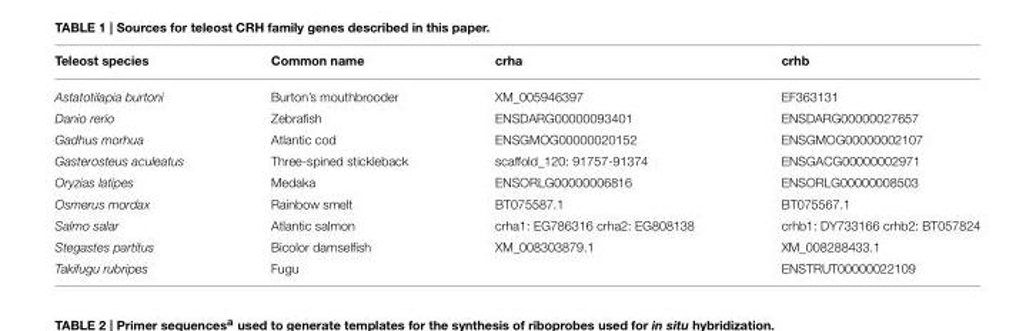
<table><thead><tr><td>Teleost species</td><td>Common name</td><td>crha</td><td>crhb</td></tr></thead><tbody><tr><td>Astatotilapia burtoni</td><td>Burton’s mouthbrooder</td><td>XM_005946397</td><td>EF363131</td></tr><tr><td>Danio rerio</td><td>Zebrafish</td><td>ENSDARG00000093401</td><td>ENSDARG00000027657</td></tr><tr><td>Gadhus morhua</td><td>Atlantic cod</td><td>ENSGMOG00000020152</td><td>ENSGMOG00000002107</td></tr><tr><td>Gasterosteus aculeatus</td><td>Three-spined stickleback</td><td>scaffold_120: 91757-91374</td><td>ENSGACG00000002971</td></tr><tr><td>Oryzias latipes</td><td>Medaka</td><td>ENSORLG00000006816</td><td>ENSORLG00000008503</td></tr><tr><td>Osmerus mordax</td><td>Rainbow smelt</td><td>BT075587.1</td><td>BT075567.1</td></tr><tr><td>Salmo salar</td><td>Atlantic salmon</td><td>crha1: EG786316 crha2: EG808138</td><td>crhb1: DY733166 crhb2: BT057824</td></tr><tr><td>Stegastes partitus</td><td>Bicolor damselfish</td><td>XM_008303879.1</td><td>XM_008288433.1</td></tr><tr><td>Takifugu rubripes</td><td>Fugu</td><td></td><td>ENSTRUT00000022109</td></tr></tbody></table>